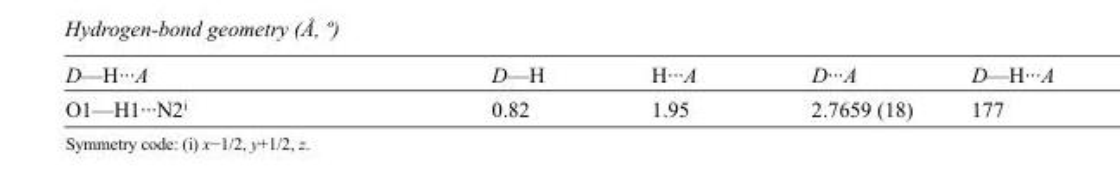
<table><tbody><tr><td>D—H···A</td><td>D—H</td><td>H···A</td><td>D···A</td><td>D—H···A</td></tr><tr><td>O1—H1···N2<sup>i</sup></td><td>0.82</td><td>1.95</td><td>2.7659 (18)</td><td>177</td></tr></tbody></table>